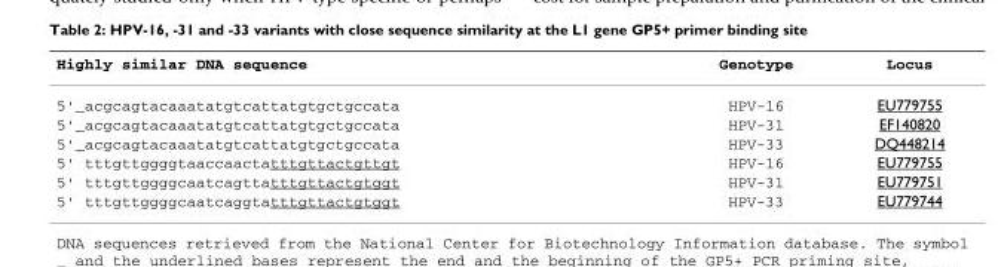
<table><thead><tr><td>Highly similar DNA sequence</td><td>Genotype</td><td>Locus</td></tr></thead><tbody><tr><td>5&#x27;_acgcagtacaaatatgtcattatgtgctgccata</td><td>HPV-16</td><td>EU779755</td></tr><tr><td>5&#x27;_acgcagtacaaatatgtcattatgtgctgccata</td><td>HPV-31</td><td>EF140820</td></tr><tr><td>5&#x27;_acgcagtacaaatatgtcattatgtgctgccata</td><td>HPV-33</td><td>DQ448214</td></tr><tr><td>5&#x27; tttgttggggtaaccaactatttgttactgttgt</td><td>HPV-16</td><td>EU779755</td></tr><tr><td>5&#x27; tttgttggggcaatcagttatttgttactgtggt</td><td>HPV-31</td><td>EU779751</td></tr><tr><td>5&#x27; tttgttggggcaatcaggtatttgttactgtggt</td><td>HPV-33</td><td>EU779744</td></tr></tbody></table>